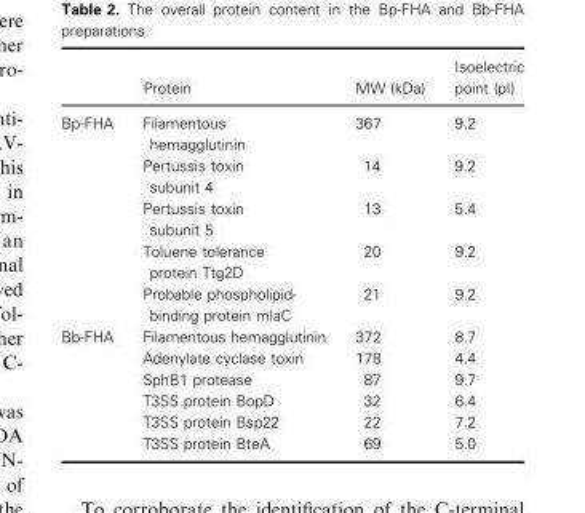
<table><thead><tr><td></td><td>Protein</td><td>MW (kDa)</td><td>Isoelectric point (pI)</td></tr></thead><tbody><tr><td rowspan="5">Bp-FHA</td><td>Filamentous hemagglutinin</td><td>367</td><td>9.2</td></tr><tr><td>Pertussis toxin subunit 4</td><td>14</td><td>9.2</td></tr><tr><td>Pertussis toxin subunit 5</td><td>13</td><td>5.4</td></tr><tr><td>Toluene tolerance protein Ttg2D</td><td>20</td><td>9.2</td></tr><tr><td>Probable phospholipid- binding protein mlaC</td><td>21</td><td>9.2</td></tr><tr><td rowspan="6">Bb-FHA</td><td>Filamentous hemagglutinin</td><td>372</td><td>8.7</td></tr><tr><td>Adenylate cyclase toxin</td><td>178</td><td>4.4</td></tr><tr><td>SphB1 protease</td><td>87</td><td>9.7</td></tr><tr><td>T3SS protein BopD</td><td>32</td><td>6.4</td></tr><tr><td>T3SS protein Bsp22</td><td>22</td><td>7.2</td></tr><tr><td>T3SS protein BteA</td><td>69</td><td>5.0</td></tr></tbody></table>